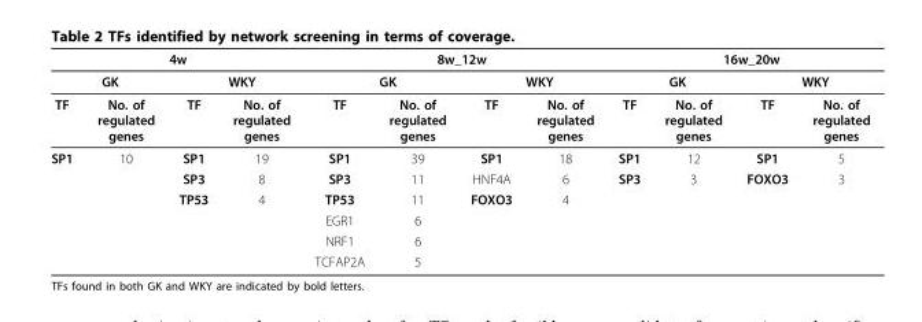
<table><thead><tr><td colspan="4">4w</td><td colspan="4">8w_12w</td><td colspan="4">16w_20w</td></tr><tr><td colspan="2">GK</td><td colspan="2">WKY</td><td colspan="2">GK</td><td colspan="2">WKY</td><td colspan="2">GK</td><td colspan="2">WKY</td></tr><tr><td>TF</td><td>No. of regulated genes</td><td>TF</td><td>No. of regulated genes</td><td>TF</td><td>No. of regulated genes</td><td>TF</td><td>No. of regulated genes</td><td>TF</td><td>No. of regulated genes</td><td>TF</td><td>No. of regulated genes</td></tr></thead><tbody><tr><td rowspan="6">SP1</td><td>10</td><td>SP1</td><td>19</td><td>SP1</td><td>39</td><td>SP1</td><td>18</td><td>SP1</td><td>12</td><td>SP1</td><td>5</td></tr><tr><td></td><td>SP3</td><td>8</td><td>SP3</td><td>11</td><td>HNF4A</td><td>6</td><td>SP3</td><td>3</td><td>FOXO3</td><td>3</td></tr><tr><td></td><td>TP53</td><td>4</td><td>TP53</td><td>11</td><td>FOXO3</td><td>4</td><td></td><td></td><td></td><td></td></tr><tr><td></td><td></td><td></td><td>EGR1</td><td>6</td><td></td><td></td><td></td><td></td><td></td><td></td></tr><tr><td></td><td></td><td></td><td>NRF1</td><td>6</td><td></td><td></td><td></td><td></td><td></td><td></td></tr><tr><td></td><td></td><td></td><td>TCFAP2A</td><td>5</td><td></td><td></td><td></td><td></td><td></td><td></td></tr></tbody></table>